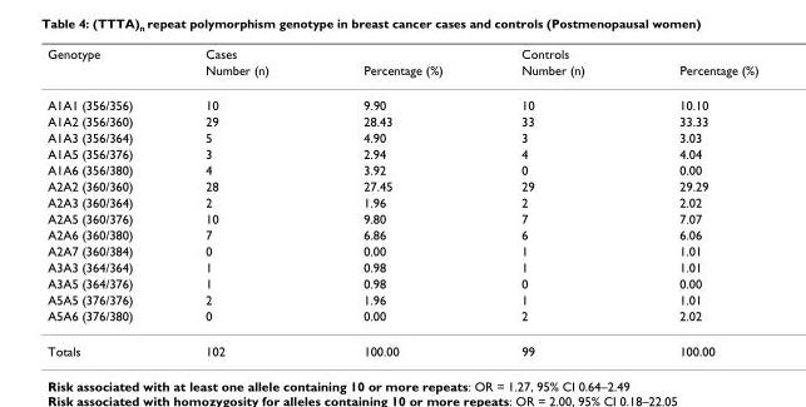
<table><thead><tr><td rowspan="2">Genotype</td><td colspan="2">Cases</td><td colspan="2">Controls</td></tr><tr><td>Number (n)</td><td>Percentage (%)</td><td>Number (n)</td><td>Percentage (%)</td></tr></thead><tbody><tr><td>A1A1 (356/356)</td><td>10</td><td>9.90</td><td>10</td><td>10.10</td></tr><tr><td>A1A2 (356/360)</td><td>29</td><td>28.43</td><td>33</td><td>33.33</td></tr><tr><td>A1A3 (356/364)</td><td>5</td><td>4.90</td><td>3</td><td>3.03</td></tr><tr><td>A1A5 (356/376)</td><td>3</td><td>2.94</td><td>4</td><td>4.04</td></tr><tr><td>A1A6 (356/380)</td><td>4</td><td>3.92</td><td>0</td><td>0.00</td></tr><tr><td>A2A2 (360/360)</td><td>28</td><td>27.45</td><td>29</td><td>29.29</td></tr><tr><td>A2A3 (360/364)</td><td>2</td><td>1.96</td><td>2</td><td>2.02</td></tr><tr><td>A2A5 (360/376)</td><td>10</td><td>9.80</td><td>7</td><td>7.07</td></tr><tr><td>A2A6 (360/380)</td><td>7</td><td>6.86</td><td>6</td><td>6.06</td></tr><tr><td>A2A7 (360/384)</td><td>0</td><td>0.00</td><td>1</td><td>1.01</td></tr><tr><td>A3A3 (364/364)</td><td>1</td><td>0.98</td><td>1</td><td>1.01</td></tr><tr><td>A3A5 (364/376)</td><td>1</td><td>0.98</td><td>0</td><td>0.00</td></tr><tr><td>A5A5 (376/376)</td><td>2</td><td>1.96</td><td>1</td><td>1.01</td></tr><tr><td>A5A6 (376/380)</td><td>0</td><td>0.00</td><td>2</td><td>2.02</td></tr><tr><td>Totals</td><td>102</td><td>100.00</td><td>99</td><td>100.00</td></tr></tbody></table>